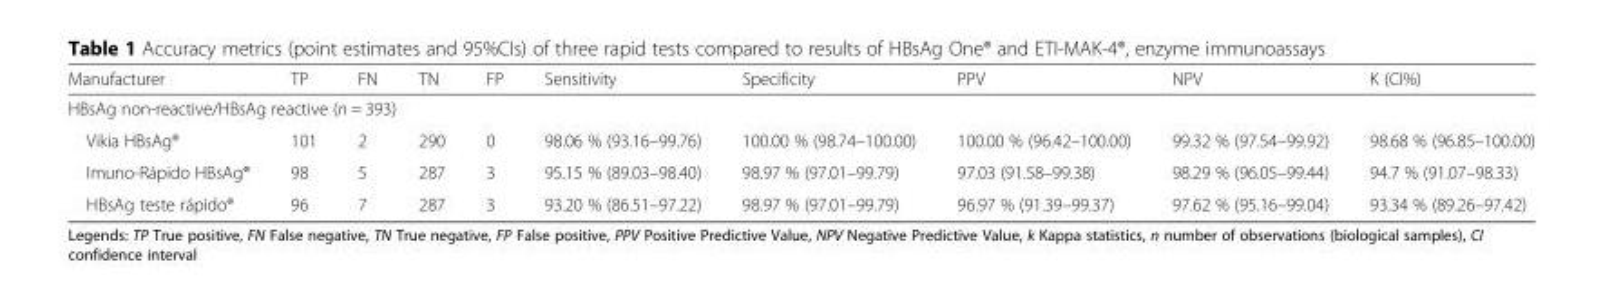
<table><thead><tr><td>Manufacturer</td><td>TP</td><td>FN</td><td>TN</td><td>FP</td><td>Sensitivity</td><td>Specificity</td><td>PPV</td><td>NPV</td><td>K (CI%)</td></tr></thead><tbody><tr><td colspan="10">HBsAg non-reactive/HBsAg reactive (n = 393)</td></tr><tr><td>Vikia HBsAg®</td><td>101</td><td>2</td><td>290</td><td>0</td><td>98.06 % (93.16–99.76)</td><td>100.00 % (98.74–100.00)</td><td>100.00 % (96.42–100.00)</td><td>99.32 % (97.54–99.92)</td><td>98.68 % (96.85–100.00)</td></tr><tr><td>Imuno-Rápido HBsAg®</td><td>98</td><td>5</td><td>287</td><td>3</td><td>95.15 % (89.03–98.40)</td><td>98.97 % (97.01–99.79)</td><td>97.03 (91.58–99.38)</td><td>98.29 % (96.05–99.44)</td><td>94.7 % (91.07–98.33)</td></tr><tr><td>HBsAg teste rápido®</td><td>96</td><td>7</td><td>287</td><td>3</td><td>93.20 % (86.51–97.22)</td><td>98.97 % (97.01–99.79)</td><td>96.97 % (91.39–99.37)</td><td>97.62 % (95.16–99.04)</td><td>93.34 % (89.26–97.42)</td></tr></tbody></table>